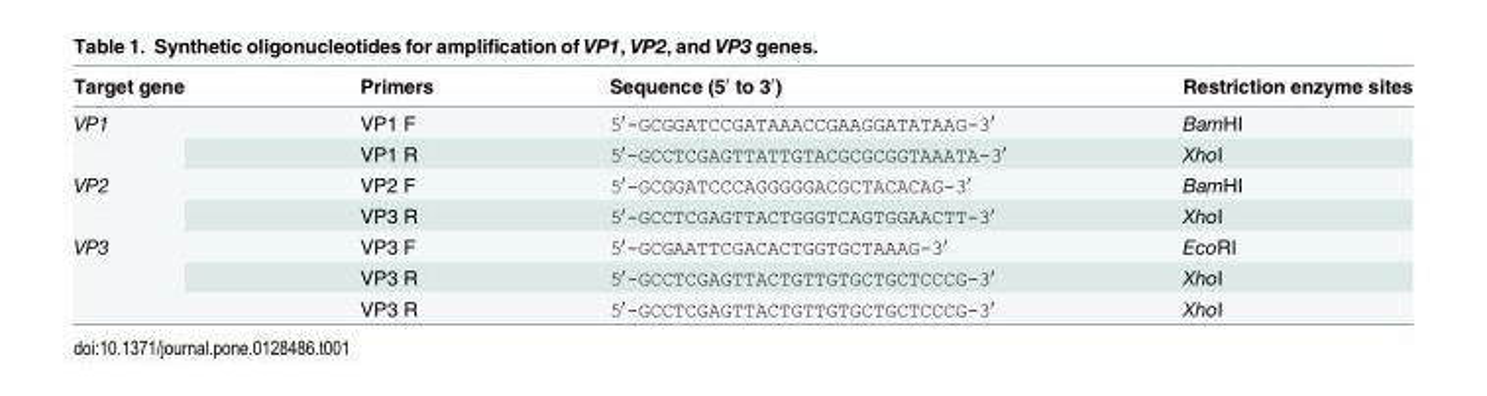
<table><thead><tr><td>Target gene</td><td>Primers</td><td>Sequence (5′ to 3′)</td><td>Restriction enzyme sites</td></tr></thead><tbody><tr><td rowspan="2">VP1</td><td>VP1 F</td><td>5′-GCGGATCCGATAAACCGAAGGATATAAG-3′</td><td>BamHI</td></tr><tr><td>VP1 R</td><td>5′-GCCTCGAGTTATTGTACGCGCGGTAAATA-3′</td><td>XhoI</td></tr><tr><td rowspan="2">VP2</td><td>VP2 F</td><td>5′-GCGGATCCCAGGGGGACGCTACACAG-3′</td><td>BamHI</td></tr><tr><td>VP3 R</td><td>5′-GCCTCGAGTTACTGGGTCAGTGGAACTT-3′</td><td>XhoI</td></tr><tr><td rowspan="3">VP3</td><td>VP3 F</td><td>5′-GCGAATTCGACACTGGTGCTAAAG-3′</td><td>EcoRI</td></tr><tr><td>VP3 R</td><td>5′-GCCTCGAGTTACTGTTGTGCTGCTCCCG-3′</td><td>XhoI</td></tr><tr><td>VP3 R</td><td>5′-GCCTCGAGTTACTGTTGTGCTGCTCCCG-3′</td><td>XhoI</td></tr></tbody></table>